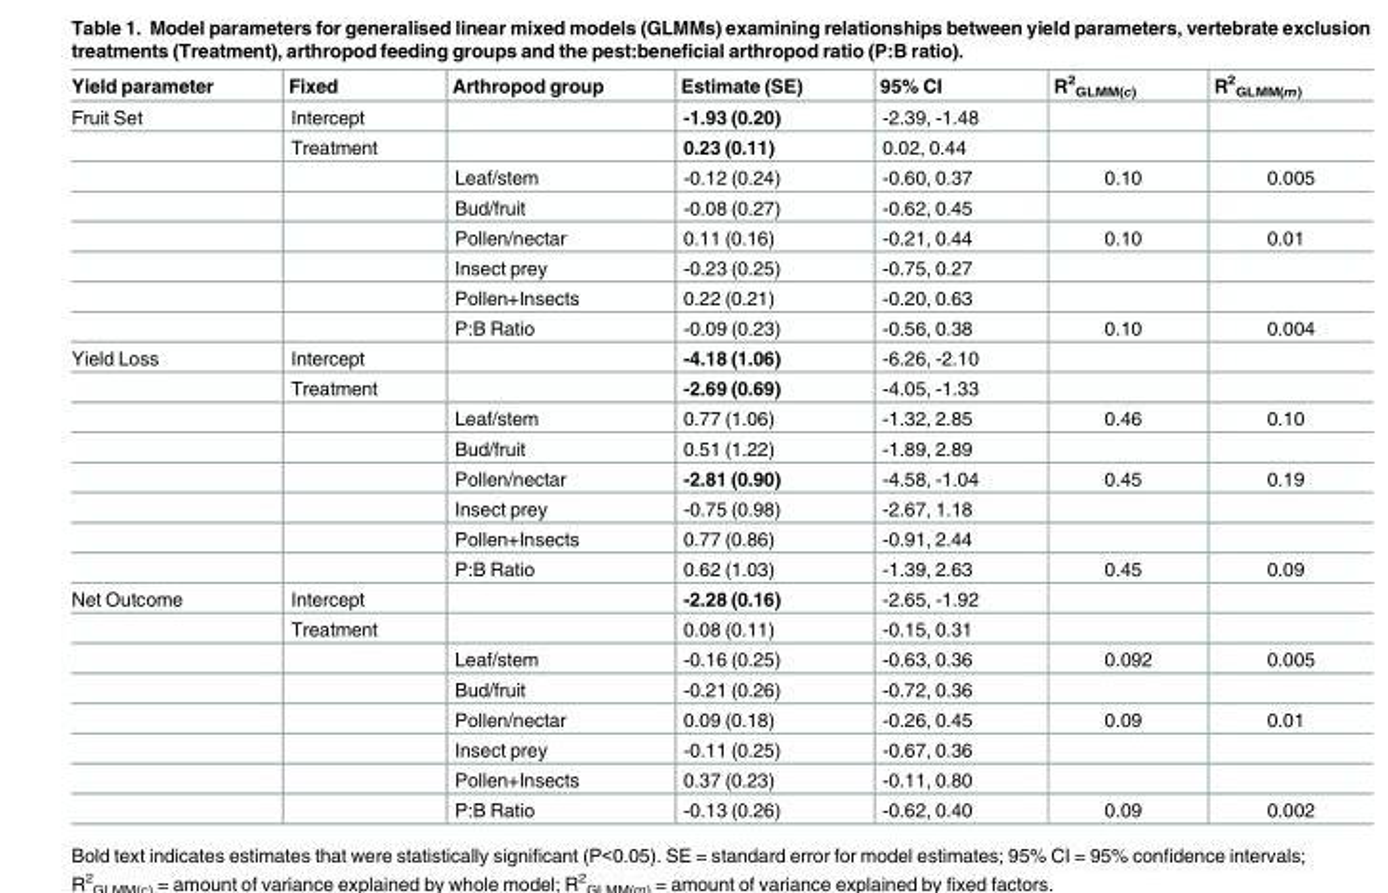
<table><thead><tr><td>Yield parameter</td><td>Fixed</td><td>Arthropod group</td><td>Estimate (SE)</td><td>95% CI</td><td>R<sup>2</sup> <sub>GLMM(c)</sub></td><td>R<sup>2</sup> <sub>GLMM(m)</sub></td></tr></thead><tbody><tr><td rowspan="8">Fruit Set</td><td>Intercept</td><td></td><td>-1.93 (0.20)</td><td>-2.39, -1.48</td><td></td><td></td></tr><tr><td>Treatment</td><td></td><td>0.23 (0.11)</td><td>0.02, 0.44</td><td></td><td></td></tr><tr><td></td><td>Leaf/stem</td><td>-0.12 (0.24)</td><td>-0.60, 0.37</td><td>0.10</td><td>0.005</td></tr><tr><td></td><td>Bud/fruit</td><td>-0.08 (0.27)</td><td>-0.62, 0.45</td><td></td><td></td></tr><tr><td></td><td>Pollen/nectar</td><td>0.11 (0.16)</td><td>-0.21, 0.44</td><td>0.10</td><td>0.01</td></tr><tr><td></td><td>Insect prey</td><td>-0.23 (0.25)</td><td>-0.75, 0.27</td><td></td><td></td></tr><tr><td></td><td>Pollen+Insects</td><td>0.22 (0.21)</td><td>-0.20, 0.63</td><td></td><td></td></tr><tr><td></td><td>P:B Ratio</td><td>-0.09 (0.23)</td><td>-0.56, 0.38</td><td>0.10</td><td>0.004</td></tr><tr><td rowspan="8">Yield Loss</td><td>Intercept</td><td></td><td>-4.18 (1.06)</td><td>-6.26, -2.10</td><td></td><td></td></tr><tr><td>Treatment</td><td></td><td>-2.69 (0.69)</td><td>-4.05, -1.33</td><td></td><td></td></tr><tr><td></td><td>Leaf/stem</td><td>0.77 (1.06)</td><td>-1.32, 2.85</td><td>0.46</td><td>0.10</td></tr><tr><td></td><td>Bud/fruit</td><td>0.51 (1.22)</td><td>-1.89, 2.89</td><td></td><td></td></tr><tr><td></td><td>Pollen/nectar</td><td>-2.81 (0.90)</td><td>-4.58, -1.04</td><td>0.45</td><td>0.19</td></tr><tr><td></td><td>Insect prey</td><td>-0.75 (0.98)</td><td>-2.67, 1.18</td><td></td><td></td></tr><tr><td></td><td>Pollen+Insects</td><td>0.77 (0.86)</td><td>-0.91, 2.44</td><td></td><td></td></tr><tr><td></td><td>P:B Ratio</td><td>0.62 (1.03)</td><td>-1.39, 2.63</td><td>0.45</td><td>0.09</td></tr><tr><td rowspan="8">Net Outcome</td><td>Intercept</td><td></td><td>-2.28 (0.16)</td><td>-2.65, -1.92</td><td></td><td></td></tr><tr><td>Treatment</td><td></td><td>0.08 (0.11)</td><td>-0.15, 0.31</td><td></td><td></td></tr><tr><td></td><td>Leaf/stem</td><td>-0.16 (0.25)</td><td>-0.63, 0.36</td><td>0.092</td><td>0.005</td></tr><tr><td></td><td>Bud/fruit</td><td>-0.21 (0.26)</td><td>-0.72, 0.36</td><td></td><td></td></tr><tr><td></td><td>Pollen/nectar</td><td>0.09 (0.18)</td><td>-0.26, 0.45</td><td>0.09</td><td>0.01</td></tr><tr><td></td><td>Insect prey</td><td>-0.11 (0.25)</td><td>-0.67, 0.36</td><td></td><td></td></tr><tr><td></td><td>Pollen+Insects</td><td>0.37 (0.23)</td><td>-0.11, 0.80</td><td></td><td></td></tr><tr><td></td><td>P:B Ratio</td><td>-0.13 (0.26)</td><td>-0.62, 0.40</td><td>0.09</td><td>0.002</td></tr></tbody></table>